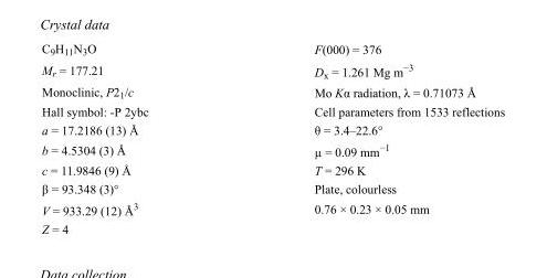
<table><tbody><tr><td>C<sub>9</sub>H<sub>11</sub>N<sub>3</sub>O</td><td>F(000) = 376</td></tr><tr><td>M<sub>r</sub> = 177.21</td><td>D<sub>x</sub> = 1.261 Mg m<sup>−3</sup></td></tr><tr><td>Monoclinic, P2<sub>1</sub>/c</td><td>Mo Kα radiation, λ = 0.71073 Å</td></tr><tr><td>Hall symbol: -P 2ybc</td><td>Cell parameters from 1533 reflections</td></tr><tr><td>a = 17.2186 (13) Å</td><td>θ = 3.4–22.6°</td></tr><tr><td>b = 4.5304 (3) Å</td><td>µ = 0.09 mm<sup>−1</sup></td></tr><tr><td>c = 11.9846 (9) Å</td><td>T = 296 K</td></tr><tr><td>β = 93.348 (3)°</td><td>Plate, colourless</td></tr><tr><td>V = 933.29 (12) Å<sup>3</sup></td><td>0.76 × 0.23 × 0.05 mm</td></tr><tr><td>Z = 4</td><td></td></tr></tbody></table>